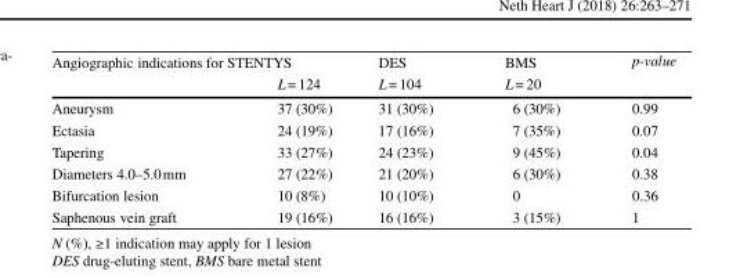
<table><thead><tr><td colspan="2">Angiographic indications for STENTYS</td><td rowspan="2">DES L= 104</td><td rowspan="2">BMS L= 20</td><td rowspan="2">p-value</td></tr><tr><td></td><td>L= 124</td></tr></thead><tbody><tr><td>Aneurysm</td><td>37 (30%)</td><td>31 (30%)</td><td>6 (30%)</td><td>0.99</td></tr><tr><td>Ectasia</td><td>24 (19%)</td><td>17 (16%)</td><td>7 (35%)</td><td>0.07</td></tr><tr><td>Tapering</td><td>33 (27%)</td><td>24 (23%)</td><td>9 (45%)</td><td>0.04</td></tr><tr><td>Diameters 4.0–5.0mm</td><td>27 (22%)</td><td>21 (20%)</td><td>6 (30%)</td><td>0.38</td></tr><tr><td>Bifurcation lesion</td><td>10 (8%)</td><td>10 (10%)</td><td>0</td><td>0.36</td></tr><tr><td>Saphenous vein graft</td><td>19 (16%)</td><td>16 (16%)</td><td>3 (15%)</td><td>1</td></tr></tbody></table>